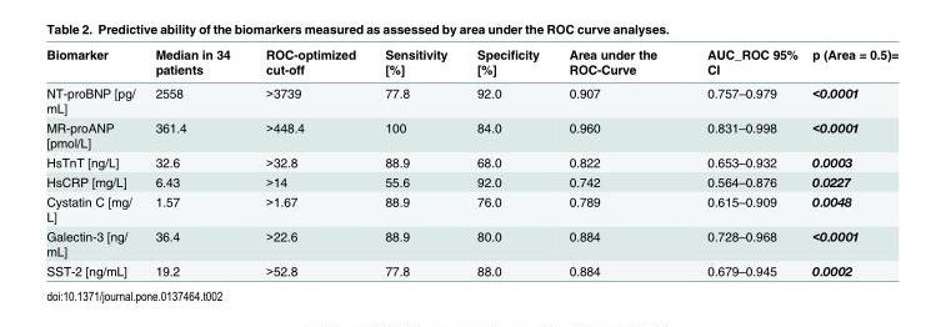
<table><thead><tr><td>Biomarker</td><td>Median in 34 patients</td><td>ROC-optimized cut-off</td><td>Sensitivity [%]</td><td>Specificity [%]</td><td>Area under the ROC-Curve</td><td>AUC_ROC 95% CI</td><td>p (Area = 0.5)=</td></tr></thead><tbody><tr><td>NT-proBNP [pg/ mL]</td><td>2558</td><td>&gt;3739</td><td>77.8</td><td>92.0</td><td>0.907</td><td>0.757–0.979</td><td>&lt;0.0001</td></tr><tr><td>MR-proANP [pmol/L]</td><td>361.4</td><td>&gt;448.4</td><td>100</td><td>84.0</td><td>0.960</td><td>0.831–0.998</td><td>&lt;0.0001</td></tr><tr><td>HsTnT [ng/L]</td><td>32.6</td><td>&gt;32.8</td><td>88.9</td><td>68.0</td><td>0.822</td><td>0.653–0.932</td><td>0.0003</td></tr><tr><td>HsCRP [mg/L]</td><td>6.43</td><td>&gt;14</td><td>55.6</td><td>92.0</td><td>0.742</td><td>0.564–0.876</td><td>0.0227</td></tr><tr><td>Cystatin C [mg/ L]</td><td>1.57</td><td>&gt;1.67</td><td>88.9</td><td>76.0</td><td>0.789</td><td>0.615–0.909</td><td>0.0048</td></tr><tr><td>Galectin-3 [ng/ mL]</td><td>36.4</td><td>&gt;22.6</td><td>88.9</td><td>80.0</td><td>0.884</td><td>0.728–0.968</td><td>&lt;0.0001</td></tr><tr><td>SST-2 [ng/mL]</td><td>19.2</td><td>&gt;52.8</td><td>77.8</td><td>88.0</td><td>0.884</td><td>0.679–0.945</td><td>0.0002</td></tr></tbody></table>